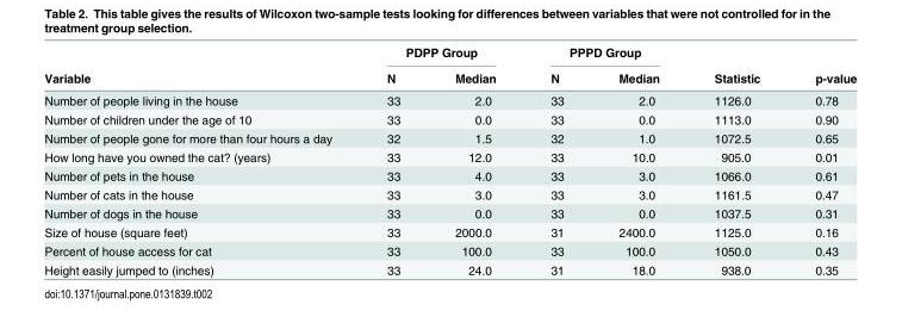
<table><thead><tr><td rowspan="2">Variable</td><td colspan="2">PDPP Group</td><td colspan="2">PPPD Group</td><td rowspan="2">Statistic</td><td rowspan="2">p-value</td></tr><tr><td>N</td><td>Median</td><td>N</td><td>Median</td></tr></thead><tbody><tr><td>Number of people living in the house</td><td>33</td><td>2.0</td><td>33</td><td>2.0</td><td>1126.0</td><td>0.78</td></tr><tr><td>Number of children under the age of 10</td><td>33</td><td>0.0</td><td>33</td><td>0.0</td><td>1113.0</td><td>0.90</td></tr><tr><td>Number of people gone for more than four hours a day</td><td>32</td><td>1.5</td><td>32</td><td>1.0</td><td>1072.5</td><td>0.65</td></tr><tr><td>How long have you owned the cat? (years)</td><td>33</td><td>12.0</td><td>33</td><td>10.0</td><td>905.0</td><td>0.01</td></tr><tr><td>Number of pets in the house</td><td>33</td><td>4.0</td><td>33</td><td>3.0</td><td>1066.0</td><td>0.61</td></tr><tr><td>Number of cats in the house</td><td>33</td><td>3.0</td><td>33</td><td>3.0</td><td>1161.5</td><td>0.47</td></tr><tr><td>Number of dogs in the house</td><td>33</td><td>0.0</td><td>33</td><td>0.0</td><td>1037.5</td><td>0.31</td></tr><tr><td>Size of house (square feet)</td><td>33</td><td>2000.0</td><td>31</td><td>2400.0</td><td>1125.0</td><td>0.16</td></tr><tr><td>Percent of house access for cat</td><td>33</td><td>100.0</td><td>33</td><td>100.0</td><td>1050.0</td><td>0.43</td></tr><tr><td>Height easily jumped to (inches)</td><td>33</td><td>24.0</td><td>31</td><td>18.0</td><td>938.0</td><td>0.35</td></tr></tbody></table>